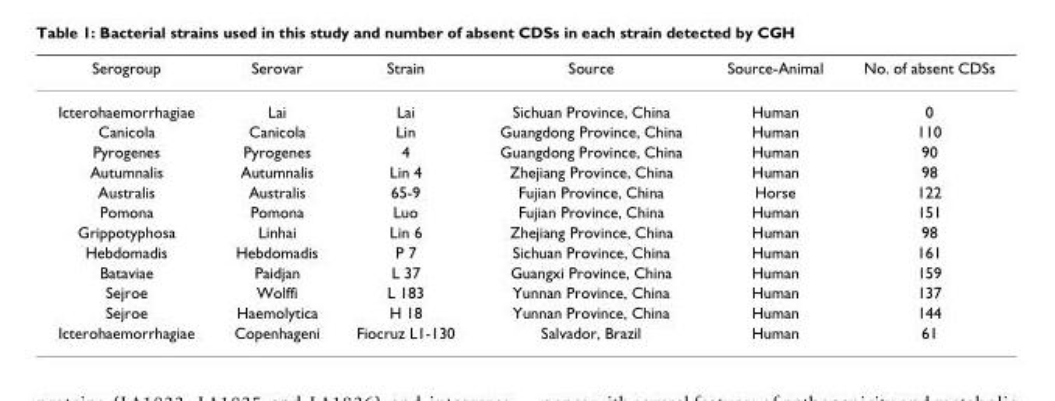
<table><thead><tr><td>Serogroup</td><td>Serovar</td><td>Strain</td><td>Source</td><td>Source-Animal</td><td>No. of absent CDSs</td></tr></thead><tbody><tr><td>Icterohaemorrhagiae</td><td>Lai</td><td>Lai</td><td>Sichuan Province, China</td><td>Human</td><td>0</td></tr><tr><td>Canicola</td><td>Canicola</td><td>Lin</td><td>Guangdong Province, China</td><td>Human</td><td>110</td></tr><tr><td>Pyrogenes</td><td>Pyrogenes</td><td>4</td><td>Guangdong Province, China</td><td>Human</td><td>90</td></tr><tr><td>Autumnalis</td><td>Autumnalis</td><td>Lin 4</td><td>Zhejiang Province, China</td><td>Human</td><td>98</td></tr><tr><td>Australis</td><td>Australis</td><td>65-9</td><td>Fujian Province, China</td><td>Horse</td><td>122</td></tr><tr><td>Pomona</td><td>Pomona</td><td>Luo</td><td>Fujian Province, China</td><td>Human</td><td>151</td></tr><tr><td>Grippotyphosa</td><td>Linhai</td><td>Lin 6</td><td>Zhejiang Province, China</td><td>Human</td><td>98</td></tr><tr><td>Hebdomadis</td><td>Hebdomadis</td><td>P 7</td><td>Sichuan Province, China</td><td>Human</td><td>161</td></tr><tr><td>Bataviae</td><td>Paidjan</td><td>L 37</td><td>Guangxi Province, China</td><td>Human</td><td>159</td></tr><tr><td>Sejroe</td><td>Wolffi</td><td>L 183</td><td>Yunnan Province, China</td><td>Human</td><td>137</td></tr><tr><td>Sejroe</td><td>Haemolytica</td><td>H 18</td><td>Yunnan Province, China</td><td>Human</td><td>144</td></tr><tr><td>Icterohaemorrhagiae</td><td>Copenhageni</td><td>Fiocruz L1-130</td><td>Salvador, Brazil</td><td>Human</td><td>61</td></tr></tbody></table>